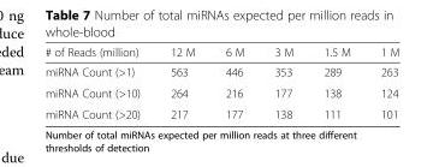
<table><thead><tr><td># of Reads (million)</td><td>12 M</td><td>6 M</td><td>3 M</td><td>1.5 M</td><td>1 M</td></tr></thead><tbody><tr><td>miRNA Count (&gt;1)</td><td>563</td><td>446</td><td>353</td><td>289</td><td>263</td></tr><tr><td>miRNA Count (&gt;10)</td><td>264</td><td>216</td><td>177</td><td>138</td><td>124</td></tr><tr><td>miRNA Count (&gt;20)</td><td>217</td><td>177</td><td>138</td><td>111</td><td>101</td></tr></tbody></table>